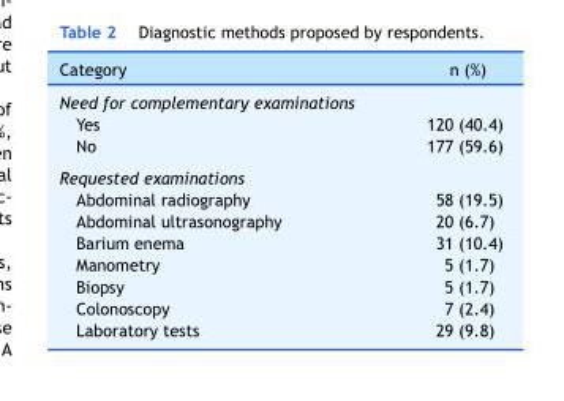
<table><thead><tr><td>Category</td><td>n (%)</td></tr></thead><tbody><tr><td colspan="2">Need for complementary examinations</td></tr><tr><td>Yes</td><td>120 (40.4)</td></tr><tr><td>No</td><td>177 (59.6)</td></tr><tr><td colspan="2">Requested examinations</td></tr><tr><td>Abdominal radiography</td><td>58 (19.5)</td></tr><tr><td>Abdominal ultrasonography</td><td>20 (6.7)</td></tr><tr><td>Barium enema</td><td>31 (10.4)</td></tr><tr><td>Manometry</td><td>5 (1.7)</td></tr><tr><td>Biopsy</td><td>5 (1.7)</td></tr><tr><td>Colonoscopy</td><td>7 (2.4)</td></tr><tr><td>Laboratory tests</td><td>29 (9.8)</td></tr></tbody></table>